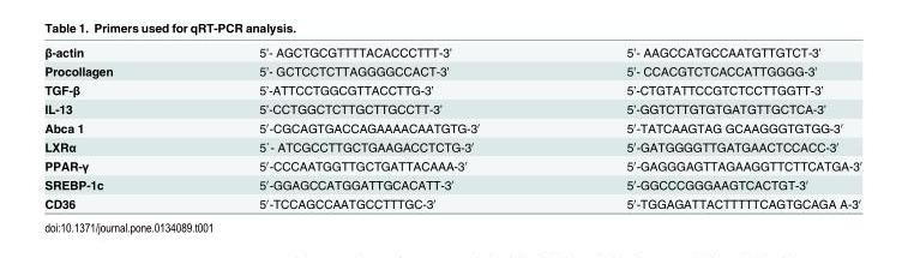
<table><tbody><tr><td>β-actin</td><td>5’- AGCTGCGTTTTACACCCTTT-3’</td><td>5’- AAGCCATGCCAATGTTGTCT-3’</td></tr><tr><td>Procollagen</td><td>5’- GCTCCTCTTAGGGGCCACT-3’</td><td>5’- CCACGTCTCACCATTGGGG-3’</td></tr><tr><td>TGF-β</td><td>5’-ATTCCTGGCGTTACCTTG-3’</td><td>5’-CTGTATTCCGTCTCCTTGGTT-3’</td></tr><tr><td>IL-13</td><td>5’-CCTGGCTCTTGCTTGCCTT-3’</td><td>5’-GGTCTTGTGTGATGTTGCTCA-3’</td></tr><tr><td>Abca 1</td><td>5′-CGCAGTGACCAGAAAACAATGTG-3′</td><td>5′-TATCAAGTAG GCAAGGGTGTGG-3′</td></tr><tr><td>LXRα</td><td>5`- ATCGCCTTGCTGAAGACCTCTG-3′</td><td>5′-GATGGGGTTGATGAACTCCACC-3′</td></tr><tr><td>PPAR-γ</td><td>5′-CCCAATGGTTGCTGATTACAAA-3′</td><td>5′-GAGGGAGTTAGAAGGTTCTTCATGA-3′</td></tr><tr><td>SREBP-1c</td><td>5′-GGAGCCATGGATTGCACATT-3′</td><td>5′-GGCCCGGGAAGTCACTGT-3′</td></tr><tr><td>CD36</td><td>5′-TCCAGCCAATGCCTTTGC-3′</td><td>5′-TGGAGATTACTTTTTCAGTGCAGA A-3′</td></tr></tbody></table>